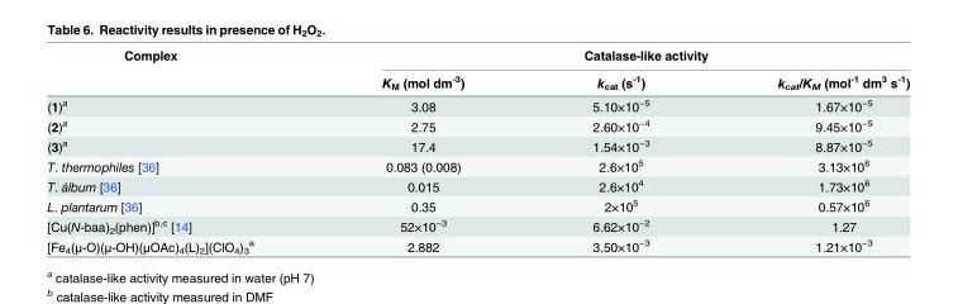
<table><thead><tr><td rowspan="2">Complex</td><td colspan="3">Catalase-like activity</td></tr><tr><td>K<sub>M</sub> (mol dm<sup>-3</sup>)</td><td>k<sub>cat</sub> (s<sup>-1</sup>)</td><td>k<sub>cat</sub>/K<sub>M</sub> (mol<sup>-1</sup> dm<sup>3</sup> s<sup>-1</sup>)</td></tr></thead><tbody><tr><td>(1)<sup>a</sup></td><td>3.08</td><td>5.10×10<sup>−5</sup></td><td>1.67×10<sup>−5</sup></td></tr><tr><td>(2)<sup>a</sup></td><td>2.75</td><td>2.60×10<sup>−4</sup></td><td>9.45×10<sup>−5</sup></td></tr><tr><td>(3)<sup>a</sup></td><td>17.4</td><td>1.54×10<sup>−3</sup></td><td>8.87×10<sup>−5</sup></td></tr><tr><td>T. thermophiles [36]</td><td>0.083 (0.008)</td><td>2.6×10<sup>5</sup></td><td>3.13×10<sup>6</sup></td></tr><tr><td>T. álbum [36]</td><td>0.015</td><td>2.6×10<sup>4</sup></td><td>1.73×10<sup>6</sup></td></tr><tr><td>L. plantarum [36]</td><td>0.35</td><td>2×10<sup>5</sup></td><td>0.57×10<sup>6</sup></td></tr><tr><td>[Cu(N-baa)<sub>2</sub>(phen)]<sup>b,c</sup> [14]</td><td>52×10<sup>−3</sup></td><td>6.62×10<sup>−2</sup></td><td>1.27</td></tr><tr><td>[Fe<sub>4</sub>(μ-O)(μ-OH)(μOAc)<sub>4</sub>(L)<sub>2</sub>](ClO<sub>4</sub>)<sub>3</sub> <sup>a</sup></td><td>2.882</td><td>3.50×10<sup>−3</sup></td><td>1.21×10<sup>−3</sup></td></tr></tbody></table>